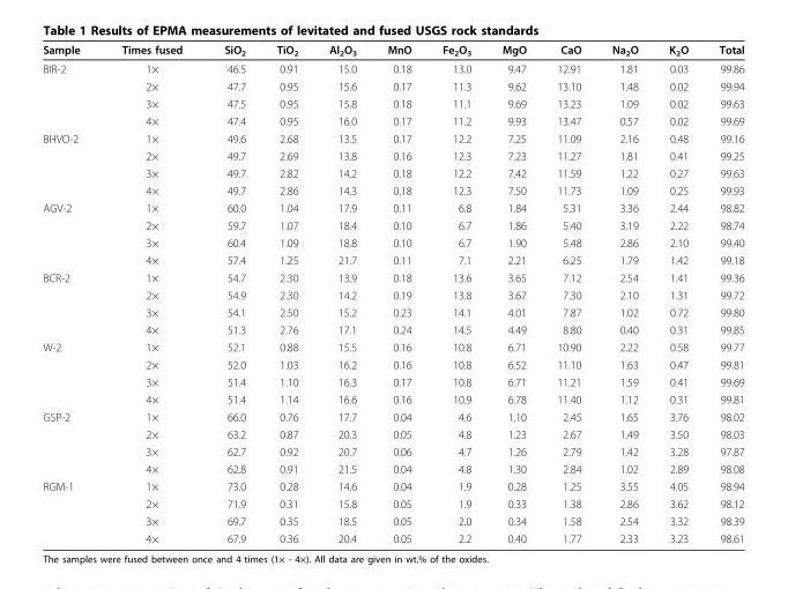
<table><thead><tr><td>Sample</td><td>Times fused</td><td>SiO<sub>2</sub></td><td>TiO<sub>2</sub></td><td>Al<sub>2</sub>O<sub>3</sub></td><td>MnO</td><td>Fe<sub>2</sub>O<sub>3</sub></td><td>MgO</td><td>CaO</td><td>Na<sub>2</sub>O</td><td>K<sub>2</sub>O</td><td>Total</td></tr></thead><tbody><tr><td rowspan="4">BIR-2</td><td>1×</td><td>46.5</td><td>0.91</td><td>15.0</td><td>0.18</td><td>13.0</td><td>9.47</td><td>12.91</td><td>1.81</td><td>0.03</td><td>99.86</td></tr><tr><td>2×</td><td>47.7</td><td>0.95</td><td>15.6</td><td>0.17</td><td>11.3</td><td>9.62</td><td>13.10</td><td>1.48</td><td>0.02</td><td>99.94</td></tr><tr><td>3×</td><td>47.5</td><td>0.95</td><td>15.8</td><td>0.18</td><td>11.1</td><td>9.69</td><td>13.23</td><td>1.09</td><td>0.02</td><td>99.63</td></tr><tr><td>4×</td><td>47.4</td><td>0.95</td><td>16.0</td><td>0.17</td><td>11.2</td><td>9.93</td><td>13.47</td><td>0.57</td><td>0.02</td><td>99.69</td></tr><tr><td rowspan="4">BHVO-2</td><td>1×</td><td>49.6</td><td>2.68</td><td>13.5</td><td>0.17</td><td>12.2</td><td>7.25</td><td>11.09</td><td>2.16</td><td>0.48</td><td>99.16</td></tr><tr><td>2×</td><td>49.7</td><td>2.69</td><td>13.8</td><td>0.16</td><td>12.3</td><td>7.23</td><td>11.27</td><td>1.81</td><td>0.41</td><td>99.25</td></tr><tr><td>3×</td><td>49.7</td><td>2.82</td><td>14.2</td><td>0.18</td><td>12.2</td><td>7.42</td><td>11.59</td><td>1.22</td><td>0.27</td><td>99.63</td></tr><tr><td>4×</td><td>49.7</td><td>2.86</td><td>14.3</td><td>0.18</td><td>12.3</td><td>7.50</td><td>11.73</td><td>1.09</td><td>0.25</td><td>99.93</td></tr><tr><td rowspan="4">AGV-2</td><td>1×</td><td>60.0</td><td>1.04</td><td>17.9</td><td>0.11</td><td>6.8</td><td>1.84</td><td>5.31</td><td>3.36</td><td>2.44</td><td>98.82</td></tr><tr><td>2×</td><td>59.7</td><td>1.07</td><td>18.4</td><td>0.10</td><td>6.7</td><td>1.86</td><td>5.40</td><td>3.19</td><td>2.22</td><td>98.74</td></tr><tr><td>3×</td><td>60.4</td><td>1.09</td><td>18.8</td><td>0.10</td><td>6.7</td><td>1.90</td><td>5.48</td><td>2.86</td><td>2.10</td><td>99.40</td></tr><tr><td>4×</td><td>57.4</td><td>1.25</td><td>21.7</td><td>0.11</td><td>7.1</td><td>2.21</td><td>6.25</td><td>1.79</td><td>1.42</td><td>99.18</td></tr><tr><td rowspan="4">BCR-2</td><td>1×</td><td>54.7</td><td>2.30</td><td>13.9</td><td>0.18</td><td>13.6</td><td>3.65</td><td>7.12</td><td>2.54</td><td>1.41</td><td>99.36</td></tr><tr><td>2×</td><td>54.9</td><td>2.30</td><td>14.2</td><td>0.19</td><td>13.8</td><td>3.67</td><td>7.30</td><td>2.10</td><td>1.31</td><td>99.72</td></tr><tr><td>3×</td><td>54.1</td><td>2.50</td><td>15.2</td><td>0.23</td><td>14.1</td><td>4.01</td><td>7.87</td><td>1.02</td><td>0.72</td><td>99.80</td></tr><tr><td>4×</td><td>51.3</td><td>2.76</td><td>17.1</td><td>0.24</td><td>14.5</td><td>4.49</td><td>8.80</td><td>0.40</td><td>0.31</td><td>99.85</td></tr><tr><td rowspan="4">W-2</td><td>1×</td><td>52.1</td><td>0.88</td><td>15.5</td><td>0.16</td><td>10.8</td><td>6.71</td><td>10.90</td><td>2.22</td><td>0.58</td><td>99.77</td></tr><tr><td>2×</td><td>52.0</td><td>1.03</td><td>16.2</td><td>0.16</td><td>10.8</td><td>6.52</td><td>11.10</td><td>1.63</td><td>0.47</td><td>99.81</td></tr><tr><td>3×</td><td>51.4</td><td>1.10</td><td>16.3</td><td>0.17</td><td>10.8</td><td>6.71</td><td>11.21</td><td>1.59</td><td>0.41</td><td>99.69</td></tr><tr><td>4×</td><td>51.4</td><td>1.14</td><td>16.6</td><td>0.16</td><td>10.9</td><td>6.78</td><td>11.40</td><td>1.12</td><td>0.31</td><td>99.81</td></tr><tr><td rowspan="4">GSP-2</td><td>1×</td><td>66.0</td><td>0.76</td><td>17.7</td><td>0.04</td><td>4.6</td><td>1.10</td><td>2.45</td><td>1.65</td><td>3.76</td><td>98.02</td></tr><tr><td>2×</td><td>63.2</td><td>0.87</td><td>20.3</td><td>0.05</td><td>4.8</td><td>1.23</td><td>2.67</td><td>1.49</td><td>3.50</td><td>98.03</td></tr><tr><td>3×</td><td>62.7</td><td>0.92</td><td>20.7</td><td>0.06</td><td>4.7</td><td>1.26</td><td>2.79</td><td>1.42</td><td>3.28</td><td>97.87</td></tr><tr><td>4×</td><td>62.8</td><td>0.91</td><td>21.5</td><td>0.04</td><td>4.8</td><td>1.30</td><td>2.84</td><td>1.02</td><td>2.89</td><td>98.08</td></tr><tr><td rowspan="4">RGM-1</td><td>1×</td><td>73.0</td><td>0.28</td><td>14.6</td><td>0.04</td><td>1.9</td><td>0.28</td><td>1.25</td><td>3.55</td><td>4.05</td><td>98.94</td></tr><tr><td>2×</td><td>71.9</td><td>0.31</td><td>15.8</td><td>0.05</td><td>1.9</td><td>0.33</td><td>1.38</td><td>2.86</td><td>3.62</td><td>98.12</td></tr><tr><td>3×</td><td>69.7</td><td>0.35</td><td>18.5</td><td>0.05</td><td>2.0</td><td>0.34</td><td>1.58</td><td>2.54</td><td>3.32</td><td>98.39</td></tr><tr><td>4×</td><td>67.9</td><td>0.36</td><td>20.4</td><td>0.05</td><td>2.2</td><td>0.40</td><td>1.77</td><td>2.33</td><td>3.23</td><td>98.61</td></tr></tbody></table>